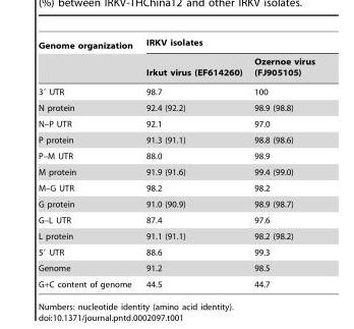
<table><thead><tr><td rowspan="2">Genome organization</td><td colspan="2">IRKV isolates</td></tr><tr><td>Irkut virus (EF614260)</td><td>Ozernoe virus (FJ905105)</td></tr></thead><tbody><tr><td>3′ UTR</td><td>98.7</td><td>100</td></tr><tr><td>N protein</td><td>92.4 (92.2)</td><td>98.9 (98.8)</td></tr><tr><td>N–P UTR</td><td>92.1</td><td>97.0</td></tr><tr><td>P protein</td><td>91.3 (91.1)</td><td>98.8 (98.6)</td></tr><tr><td>P–M UTR</td><td>88.0</td><td>98.9</td></tr><tr><td>M protein</td><td>91.9 (91.6)</td><td>99.4 (99.0)</td></tr><tr><td>M–G UTR</td><td>98.2</td><td>98.2</td></tr><tr><td>G protein</td><td>91.0 (90.9)</td><td>98.9 (98.7)</td></tr><tr><td>G–L UTR</td><td>87.4</td><td>97.6</td></tr><tr><td>L protein</td><td>91.1 (91.1)</td><td>98.2 (98.2)</td></tr><tr><td>5′ UTR</td><td>88.6</td><td>99.3</td></tr><tr><td>Genome</td><td>91.2</td><td>98.5</td></tr><tr><td>G+C content of genome</td><td>44.5</td><td>44.7</td></tr></tbody></table>